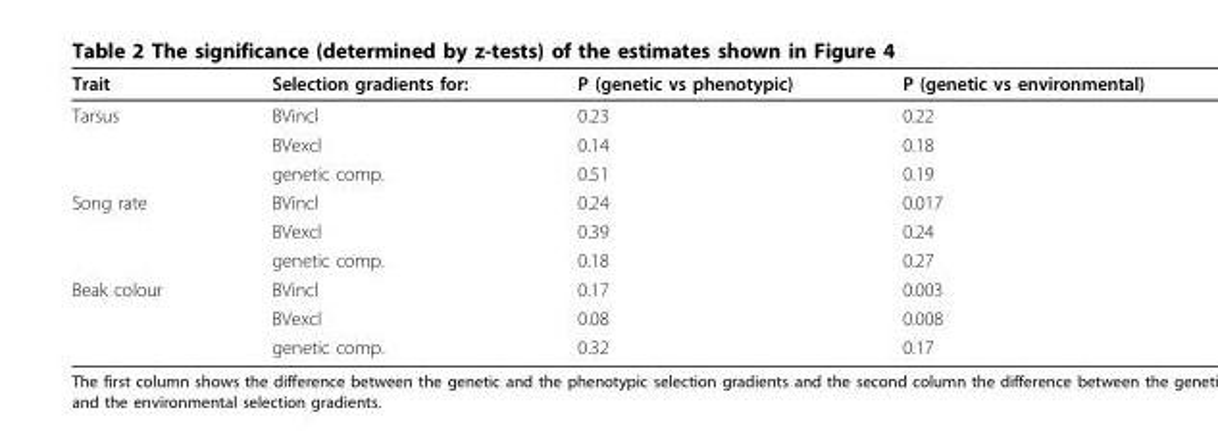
<table><thead><tr><td>Trait</td><td>Selection gradients for:</td><td>P (genetic vs phenotypic)</td><td>P (genetic vs environmental)</td></tr></thead><tbody><tr><td rowspan="3">Tarsus</td><td>BVincl</td><td>0.23</td><td>0.22</td></tr><tr><td>BVexcl</td><td>0.14</td><td>0.18</td></tr><tr><td>genetic comp.</td><td>0.51</td><td>0.19</td></tr><tr><td rowspan="3">Song rate</td><td>BVincl</td><td>0.24</td><td>0.017</td></tr><tr><td>BVexcl</td><td>0.39</td><td>0.24</td></tr><tr><td>genetic comp.</td><td>0.18</td><td>0.27</td></tr><tr><td rowspan="3">Beak colour</td><td>BVincl</td><td>0.17</td><td>0.003</td></tr><tr><td>BVexcl</td><td>0.08</td><td>0.008</td></tr><tr><td>genetic comp.</td><td>0.32</td><td>0.17</td></tr></tbody></table>